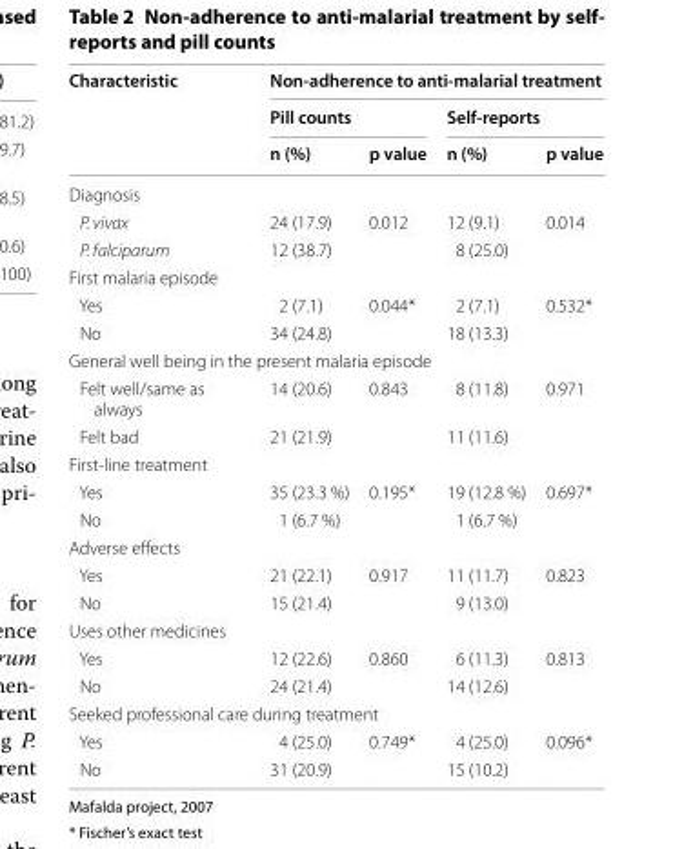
<table><thead><tr><td rowspan="3">Characteristic</td><td colspan="4">Non‑adherence to anti‑malarial treatment</td></tr><tr><td colspan="2">Pill counts</td><td colspan="2">Self‑reports</td></tr><tr><td>n (%)</td><td>p value</td><td>n (%)</td><td>p value</td></tr></thead><tbody><tr><td colspan="5">Diagnosis</td></tr><tr><td>P. vivax</td><td>24 (17.9)</td><td rowspan="2">0.012</td><td>12 (9.1)</td><td rowspan="2">0.014</td></tr><tr><td>P. falciparum</td><td>12 (38.7)</td><td>8 (25.0)</td></tr><tr><td colspan="5">First malaria episode</td></tr><tr><td>Yes</td><td>2 (7.1)</td><td rowspan="2">0.044*</td><td>2 (7.1)</td><td rowspan="2">0.532*</td></tr><tr><td>No</td><td>34 (24.8)</td><td>18 (13.3)</td></tr><tr><td colspan="5">General well being in the present malaria episode</td></tr><tr><td>Felt well/same as always</td><td>14 (20.6)</td><td rowspan="2">0.843</td><td>8 (11.8)</td><td rowspan="2">0.971</td></tr><tr><td>Felt bad</td><td>21 (21.9)</td><td>11 (11.6)</td></tr><tr><td colspan="5">First‑line treatment</td></tr><tr><td>Yes</td><td>35 (23.3 %)</td><td rowspan="2">0.195*</td><td>19 (12.8 %)</td><td rowspan="2">0.697*</td></tr><tr><td>No</td><td>1 (6.7 %)</td><td>1 (6.7 %)</td></tr><tr><td colspan="5">Adverse effects</td></tr><tr><td>Yes</td><td>21 (22.1)</td><td rowspan="2">0.917</td><td>11 (11.7)</td><td rowspan="2">0.823</td></tr><tr><td>No</td><td>15 (21.4)</td><td>9 (13.0)</td></tr><tr><td colspan="5">Uses other medicines</td></tr><tr><td>Yes</td><td>12 (22.6)</td><td rowspan="2">0.860</td><td>6 (11.3)</td><td rowspan="2">0.813</td></tr><tr><td>No</td><td>24 (21.4)</td><td>14 (12.6)</td></tr><tr><td colspan="5">Seeked professional care during treatment</td></tr><tr><td>Yes</td><td>4 (25.0)</td><td rowspan="2">0.749*</td><td>4 (25.0)</td><td rowspan="2">0.096*</td></tr><tr><td>No</td><td>31 (20.9)</td><td>15 (10.2)</td></tr></tbody></table>